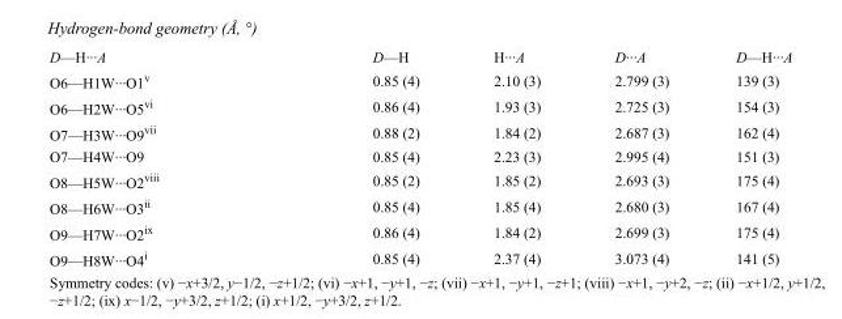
<table><tbody><tr><td>D—H···A</td><td>D—H</td><td>H···A</td><td>D···A</td><td>D—H···A</td></tr><tr><td>O6—H1W···O1<sup>v</sup></td><td>0.85 (4)</td><td>2.10 (3)</td><td>2.799 (3)</td><td>139 (3)</td></tr><tr><td>O6—H2W···O5<sup>vi</sup></td><td>0.86 (4)</td><td>1.93 (3)</td><td>2.725 (3)</td><td>154 (3)</td></tr><tr><td>O7—H3W···O9<sup>vii</sup></td><td>0.88 (2)</td><td>1.84 (2)</td><td>2.687 (3)</td><td>162 (4)</td></tr><tr><td>O7—H4W···O9</td><td>0.85 (4)</td><td>2.23 (3)</td><td>2.995 (4)</td><td>151 (3)</td></tr><tr><td>O8—H5W···O2<sup>viii</sup></td><td>0.85 (2)</td><td>1.85 (2)</td><td>2.693 (3)</td><td>175 (4)</td></tr><tr><td>O8—H6W···O3<sup>ii</sup></td><td>0.85 (4)</td><td>1.85 (4)</td><td>2.680 (3)</td><td>167 (4)</td></tr><tr><td>O9—H7W···O2<sup>ix</sup></td><td>0.86 (4)</td><td>1.84 (2)</td><td>2.699 (3)</td><td>175 (4)</td></tr><tr><td>O9—H8W···O4<sup>i</sup></td><td>0.85 (4)</td><td>2.37 (4)</td><td>3.073 (4)</td><td>141 (5)</td></tr></tbody></table>